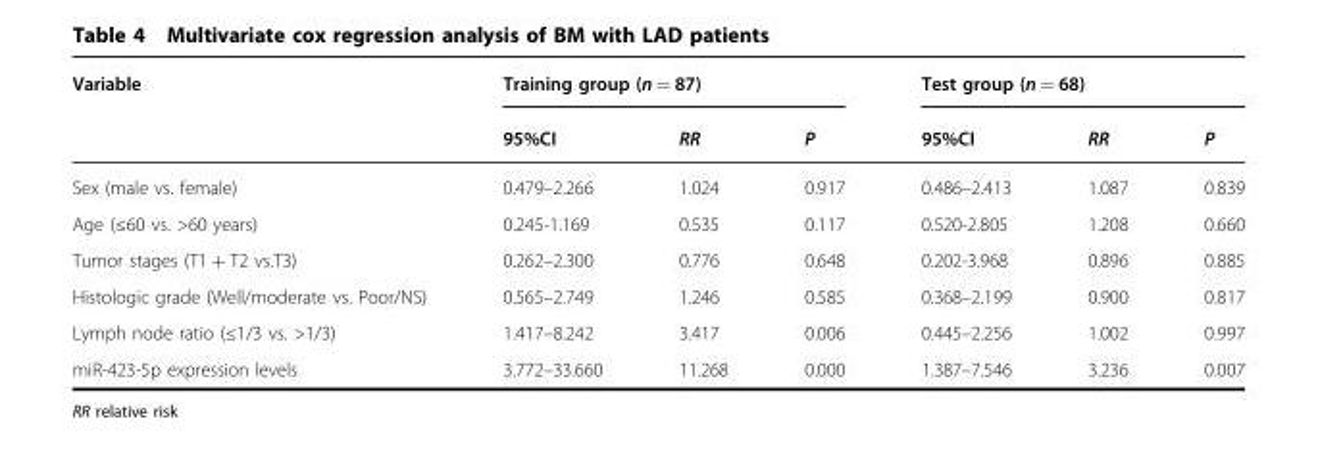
<table><thead><tr><td rowspan="2">Variable</td><td colspan="3">Training group (n = 87)</td><td colspan="3">Test group (n = 68)</td></tr><tr><td>95%CI</td><td>RR</td><td>P</td><td>95%CI</td><td>RR</td><td>P</td></tr></thead><tbody><tr><td>Sex (male vs. female)</td><td>0.479–2.266</td><td>1.024</td><td>0.917</td><td>0.486–2.413</td><td>1.087</td><td>0.839</td></tr><tr><td>Age (≤60 vs. &gt;60 years)</td><td>0.245-1.169</td><td>0.535</td><td>0.117</td><td>0.520-2.805</td><td>1.208</td><td>0.660</td></tr><tr><td>Tumor stages (T1 + T2 vs.T3)</td><td>0.262–2.300</td><td>0.776</td><td>0.648</td><td>0.202-3.968</td><td>0.896</td><td>0.885</td></tr><tr><td>Histologic grade (Well/moderate vs. Poor/NS)</td><td>0.565–2.749</td><td>1.246</td><td>0.585</td><td>0.368–2.199</td><td>0.900</td><td>0.817</td></tr><tr><td>Lymph node ratio (≤1/3 vs. &gt;1/3)</td><td>1.417–8.242</td><td>3.417</td><td>0.006</td><td>0.445–2.256</td><td>1.002</td><td>0.997</td></tr><tr><td>miR-423-5p expression levels</td><td>3.772–33.660</td><td>11.268</td><td>0.000</td><td>1.387–7.546</td><td>3.236</td><td>0.007</td></tr></tbody></table>